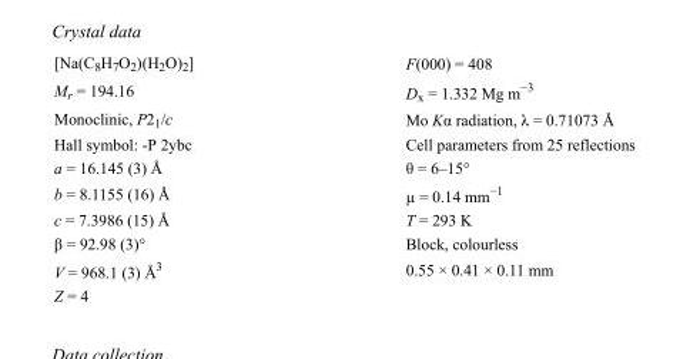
<table><tbody><tr><td>[Na(C<sub>8</sub>H<sub>7</sub>O<sub>2</sub>)(H<sub>2</sub>O)<sub>2</sub>]</td><td>F(000) = 408</td></tr><tr><td>M<sub>r</sub> = 194.16</td><td>D<sub>x</sub> = 1.332 Mg m<sup>−3</sup></td></tr><tr><td>Monoclinic, P2<sub>1</sub>/c</td><td>Mo Kα radiation, λ = 0.71073 Å</td></tr><tr><td>Hall symbol: -P 2ybc</td><td>Cell parameters from 25 reflections</td></tr><tr><td>a = 16.145 (3) Å</td><td>θ = 6–15°</td></tr><tr><td>b = 8.1155 (16) Å</td><td>µ = 0.14 mm<sup>−1</sup></td></tr><tr><td>c = 7.3986 (15) Å</td><td>T = 293 K</td></tr><tr><td>β = 92.98 (3)°</td><td>Block, colourless</td></tr><tr><td>V = 968.1 (3) Å<sup>3</sup></td><td>0.55 × 0.41 × 0.11 mm</td></tr><tr><td>Z = 4</td><td></td></tr></tbody></table>